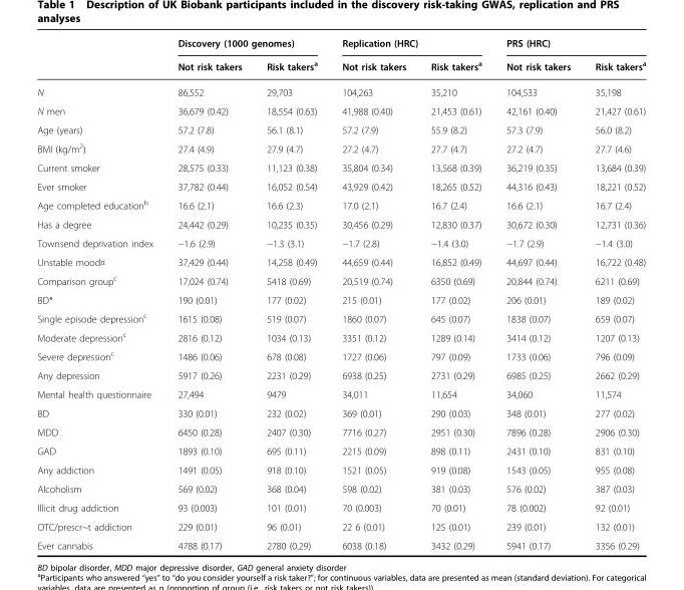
<table><thead><tr><td rowspan="2"></td><td colspan="2">Discovery (1000 genomes)</td><td colspan="2">Replication (HRC)</td><td colspan="2">PRS (HRC)</td></tr><tr><td>Not risk takers</td><td>Risk takers<sup>a</sup></td><td>Not risk takers</td><td>Risk takers<sup>a</sup></td><td>Not risk takers</td><td>Risk takers<sup>a</sup></td></tr></thead><tbody><tr><td>N</td><td>86,552</td><td>29,703</td><td>104,263</td><td>35,210</td><td>104,533</td><td>35,198</td></tr><tr><td>N men</td><td>36,679 (0.42)</td><td>18,554 (0.63)</td><td>41,988 (0.40)</td><td>21,453 (0.61)</td><td>42,161 (0.40)</td><td>21,427 (0.61)</td></tr><tr><td>Age (years)</td><td>57.2 (7.8)</td><td>56.1 (8.1)</td><td>57.2 (7.9)</td><td>55.9 (8.2)</td><td>57.3 (7.9)</td><td>56.0 (8.2)</td></tr><tr><td>BMI (kg/m<sup>2</sup>)</td><td>27.4 (4.9)</td><td>27.9 (4.7)</td><td>27.2 (4.7)</td><td>27.7 (4.7)</td><td>27.2 (4.7)</td><td>27.7 (4.6)</td></tr><tr><td>Current smoker</td><td>28,575 (0.33)</td><td>11,123 (0.38)</td><td>35,804 (0.34)</td><td>13,568 (0.39)</td><td>36,219 (0.35)</td><td>13,684 (0.39)</td></tr><tr><td>Ever smoker</td><td>37,782 (0.44)</td><td>16,052 (0.54)</td><td>43,929 (0.42)</td><td>18,265 (0.52)</td><td>44,316 (0.43)</td><td>18,221 (0.52)</td></tr><tr><td>Age completed education<sup>b</sup></td><td>16.6 (2.1)</td><td>16.6 (2.3)</td><td>17.0 (2.1)</td><td>16.7 (2.4)</td><td>16.6 (2.1)</td><td>16.7 (2.4)</td></tr><tr><td>Has a degree</td><td>24,442 (0.29)</td><td>10,235 (0.35)</td><td>30,456 (0.29)</td><td>12,830 (0.37)</td><td>30,672 (0.30)</td><td>12,731 (0.36)</td></tr><tr><td>Townsend deprivation index</td><td>−1.6 (2.9)</td><td>−1.3 (3.1)</td><td>−1.7 (2.8)</td><td>−1.4 (3.0)</td><td>−1.7 (2.9)</td><td>−1.4 (3.0)</td></tr><tr><td>Unstable mood¤</td><td>37,429 (0.44)</td><td>14,258 (0.49)</td><td>44,659 (0.44)</td><td>16,852 (0.49)</td><td>44,697 (0.44)</td><td>16,722 (0.48)</td></tr><tr><td>Comparison group<sup>c</sup></td><td>17,024 (0.74)</td><td>5418 (0.69)</td><td>20,519 (0.74)</td><td>6350 (0.69)</td><td>20,844 (0.74)</td><td>6211 (0.69)</td></tr><tr><td>BD*</td><td>190 (0.01)</td><td>177 (0.02)</td><td>215 (0.01)</td><td>177 (0.02)</td><td>206 (0.01)</td><td>189 (0.02)</td></tr><tr><td>Single episode depression<sup>c</sup></td><td>1615 (0.08)</td><td>519 (0.07)</td><td>1860 (0.07)</td><td>645 (0.07)</td><td>1838 (0.07)</td><td>659 (0.07)</td></tr><tr><td>Moderate depression<sup>c</sup></td><td>2816 (0.12)</td><td>1034 (0.13)</td><td>3351 (0.12)</td><td>1289 (0.14)</td><td>3414 (0.12)</td><td>1207 (0.13)</td></tr><tr><td>Severe depression<sup>c</sup></td><td>1486 (0.06)</td><td>678 (0.08)</td><td>1727 (0.06)</td><td>797 (0.09)</td><td>1733 (0.06)</td><td>796 (0.09)</td></tr><tr><td>Any depression</td><td>5917 (0.26)</td><td>2231 (0.29)</td><td>6938 (0.25)</td><td>2731 (0.29)</td><td>6985 (0.25)</td><td>2662 (0.29)</td></tr><tr><td>Mental health questionnaire</td><td>27,494</td><td>9479</td><td>34,011</td><td>11,654</td><td>34,060</td><td>11,574</td></tr><tr><td>BD</td><td>330 (0.01)</td><td>232 (0.02)</td><td>369 (0.01)</td><td>290 (0.03)</td><td>348 (0.01)</td><td>277 (0.02)</td></tr><tr><td>MDD</td><td>6450 (0.28)</td><td>2407 (0.30)</td><td>7716 (0.27)</td><td>2951 (0.30)</td><td>7896 (0.28)</td><td>2906 (0.30)</td></tr><tr><td>GAD</td><td>1893 (0.10)</td><td>695 (0.11)</td><td>2215 (0.09)</td><td>898 (0.11)</td><td>2431 (0.10)</td><td>831 (0.10)</td></tr><tr><td>Any addiction</td><td>1491 (0.05)</td><td>918 (0.10)</td><td>1521 (0.05)</td><td>919 (0.08)</td><td>1543 (0.05)</td><td>955 (0.08)</td></tr><tr><td>Alcoholism</td><td>569 (0.02)</td><td>368 (0.04)</td><td>598 (0.02)</td><td>381 (0.03)</td><td>576 (0.02)</td><td>387 (0.03)</td></tr><tr><td>Illicit drug addiction</td><td>93 (0.003)</td><td>101 (0.01)</td><td>70 (0.003)</td><td>70 (0.01)</td><td>78 (0.002)</td><td>92 (0.01)</td></tr><tr><td>OTC/prescr~t addiction</td><td>229 (0.01)</td><td>96 (0.01)</td><td>22 6 (0.01)</td><td>125 (0.01)</td><td>239 (0.01)</td><td>132 (0.01)</td></tr><tr><td>Ever cannabis</td><td>4788 (0.17)</td><td>2780 (0.29)</td><td>6038 (0.18)</td><td>3432 (0.29)</td><td>5941 (0.17)</td><td>3356 (0.29)</td></tr></tbody></table>